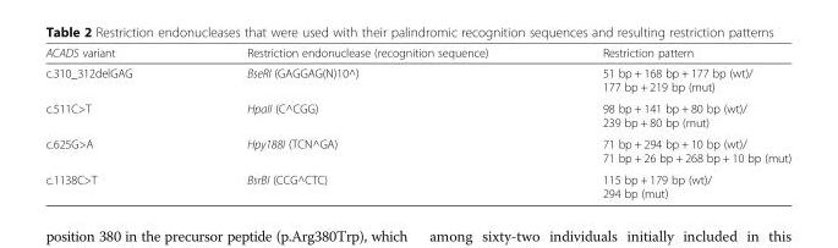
<table><thead><tr><td>ACADS variant</td><td>Restriction endonuclease (recognition sequence)</td><td>Restriction pattern</td></tr></thead><tbody><tr><td>c.310_312delGAG</td><td>BseRI (GAGGAG(N)10^)</td><td>51 bp + 168 bp + 177 bp (wt)/ 177 bp + 219 bp (mut)</td></tr><tr><td>c.511C&gt;T</td><td>HpaII (C^CGG)</td><td>98 bp + 141 bp + 80 bp (wt)/ 239 bp + 80 bp (mut)</td></tr><tr><td>c.625G&gt;A</td><td>Hpy188I (TCN^GA)</td><td>71 bp + 294 bp + 10 bp (wt)/ 71 bp + 26 bp + 268 bp + 10 bp (mut)</td></tr><tr><td>c.1138C&gt;T</td><td>BsrBI (CCG^CTC)</td><td>115 bp + 179 bp (wt)/ 294 bp (mut)</td></tr></tbody></table>